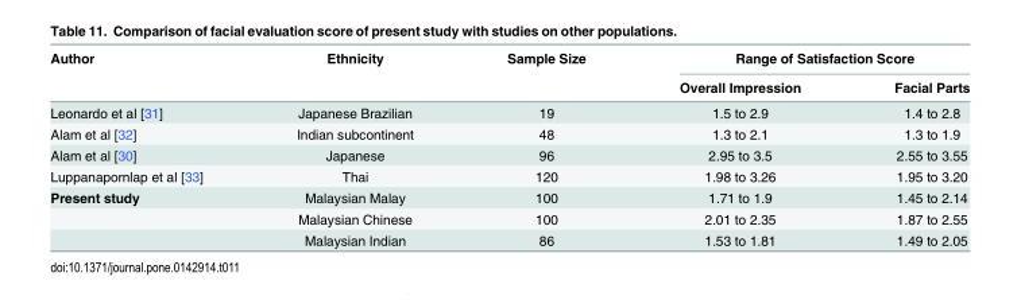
<table><thead><tr><td rowspan="2">Author</td><td rowspan="2">Ethnicity</td><td rowspan="2">Sample Size</td><td colspan="2">Range of Satisfaction Score</td></tr><tr><td>Overall Impression</td><td>Facial Parts</td></tr></thead><tbody><tr><td>Leonardo et al [31]</td><td>Japanese Brazilian</td><td>19</td><td>1.5 to 2.9</td><td>1.4 to 2.8</td></tr><tr><td>Alam et al [32]</td><td>Indian subcontinent</td><td>48</td><td>1.3 to 2.1</td><td>1.3 to 1.9</td></tr><tr><td>Alam et al [30]</td><td>Japanese</td><td>96</td><td>2.95 to 3.5</td><td>2.55 to 3.55</td></tr><tr><td>Luppanapornlap et al [33]</td><td>Thai</td><td>120</td><td>1.98 to 3.26</td><td>1.95 to 3.20</td></tr><tr><td rowspan="3">Present study</td><td>Malaysian Malay</td><td>100</td><td>1.71 to 1.9</td><td>1.45 to 2.14</td></tr><tr><td>Malaysian Chinese</td><td>100</td><td>2.01 to 2.35</td><td>1.87 to 2.55</td></tr><tr><td>Malaysian Indian</td><td>86</td><td>1.53 to 1.81</td><td>1.49 to 2.05</td></tr></tbody></table>